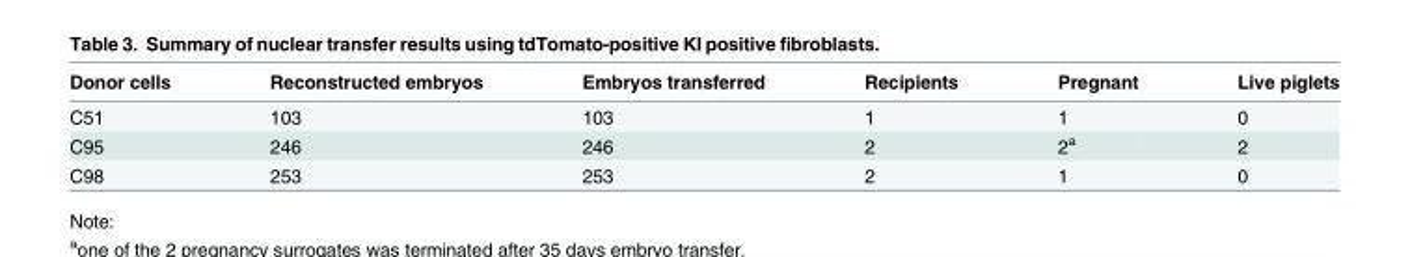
<table><thead><tr><td>Donor cells</td><td>Reconstructed embryos</td><td>Embryos transferred</td><td>Recipients</td><td>Pregnant</td><td>Live piglets</td></tr></thead><tbody><tr><td>C51</td><td>103</td><td>103</td><td>1</td><td>1</td><td>0</td></tr><tr><td>C95</td><td>246</td><td>246</td><td>2</td><td>2<sup>a</sup></td><td>2</td></tr><tr><td>C98</td><td>253</td><td>253</td><td>2</td><td>1</td><td>0</td></tr></tbody></table>